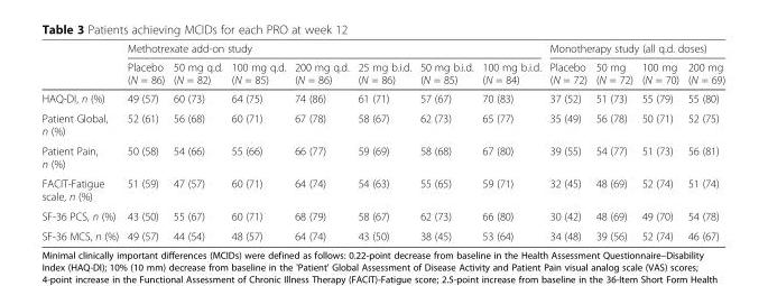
<table><thead><tr><td rowspan="2"></td><td colspan="7">Methotrexate add-on study</td><td colspan="4">Monotherapy study (all q.d. doses)</td></tr><tr><td>Placebo (N = 86)</td><td>50 mg q.d. (N = 82)</td><td>100 mg q.d. (N = 85)</td><td>200 mg q.d. (N = 86)</td><td>25 mg b.i.d. (N = 86)</td><td>50 mg b.i.d. (N = 85)</td><td>100 mg b.i.d. (N = 84)</td><td>Placebo (N = 72)</td><td>50 mg (N = 72)</td><td>100 mg (N = 70)</td><td>200 mg (N = 69)</td></tr></thead><tbody><tr><td>HAQ-DI, n (%)</td><td>49 (57)</td><td>60 (73)</td><td>64 (75)</td><td>74 (86)</td><td>61 (71)</td><td>57 (67)</td><td>70 (83)</td><td>37 (52)</td><td>51 (73)</td><td>55 (79)</td><td>55 (80)</td></tr><tr><td>Patient Global, n (%)</td><td>52 (61)</td><td>56 (68)</td><td>60 (71)</td><td>67 (78)</td><td>58 (67)</td><td>62 (73)</td><td>65 (77)</td><td>35 (49)</td><td>56 (78)</td><td>50 (71)</td><td>52 (75)</td></tr><tr><td>Patient Pain, n (%)</td><td>50 (58)</td><td>54 (66)</td><td>55 (66)</td><td>66 (77)</td><td>59 (69)</td><td>58 (68)</td><td>67 (80)</td><td>39 (55)</td><td>54 (77)</td><td>51 (73)</td><td>56 (81)</td></tr><tr><td>FACIT-Fatigue scale, n (%)</td><td>51 (59)</td><td>47 (57)</td><td>60 (71)</td><td>64 (74)</td><td>54 (63)</td><td>55 (65)</td><td>59 (71)</td><td>32 (45)</td><td>48 (69)</td><td>52 (74)</td><td>51 (74)</td></tr><tr><td>SF-36 PCS, n (%)</td><td>43 (50)</td><td>55 (67)</td><td>60 (71)</td><td>68 (79)</td><td>58 (67)</td><td>62 (73)</td><td>66 (80)</td><td>30 (42)</td><td>48 (69)</td><td>49 (70)</td><td>54 (78)</td></tr><tr><td>SF-36 MCS, n (%)</td><td>49 (57)</td><td>44 (54)</td><td>48 (57)</td><td>64 (74)</td><td>43 (50)</td><td>38 (45)</td><td>53 (64)</td><td>34 (48)</td><td>39 (56)</td><td>52 (74)</td><td>46 (67)</td></tr></tbody></table>